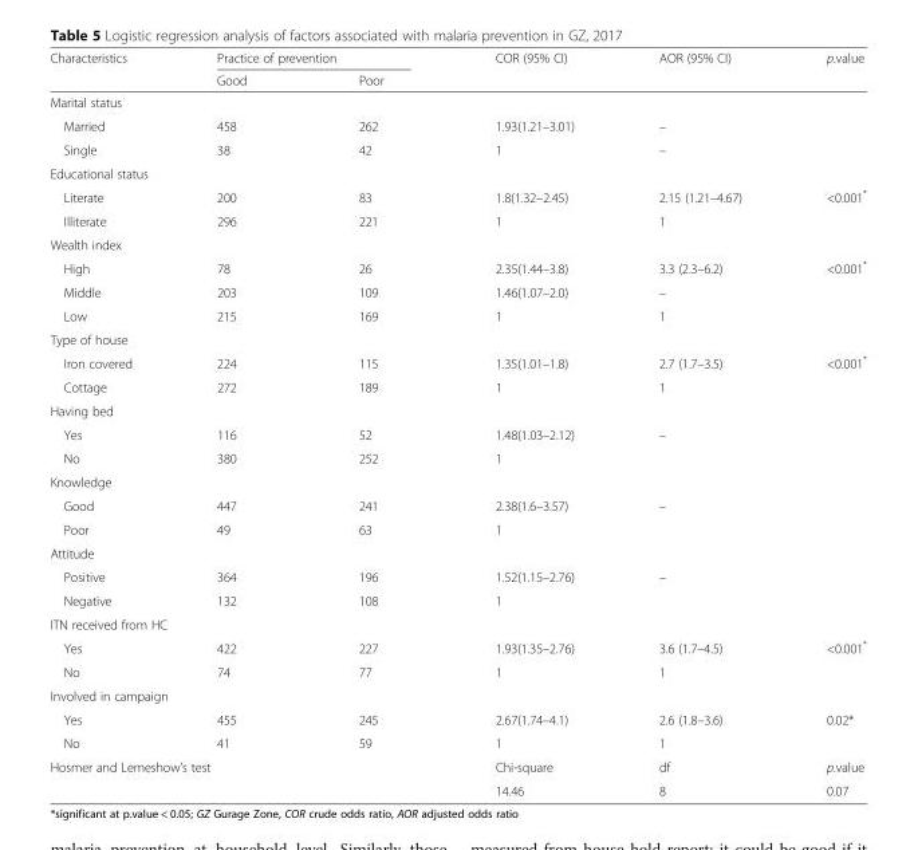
<table><thead><tr><td rowspan="2">Characteristics</td><td colspan="2">Practice of prevention</td><td rowspan="2">COR (95% CI)</td><td rowspan="2">AOR (95% CI)</td><td rowspan="2">p.value</td></tr><tr><td>Good</td><td>Poor</td></tr></thead><tbody><tr><td colspan="6">Marital status</td></tr><tr><td>Married</td><td>458</td><td>262</td><td>1.93(1.21–3.01)</td><td>–</td><td></td></tr><tr><td>Single</td><td>38</td><td>42</td><td>1</td><td>–</td><td></td></tr><tr><td colspan="6">Educational status</td></tr><tr><td>Literate</td><td>200</td><td>83</td><td>1.8(1.32–2.45)</td><td>2.15 (1.21–4.67)</td><td>&lt;0.001*</td></tr><tr><td>Illiterate</td><td>296</td><td>221</td><td>1</td><td>1</td><td></td></tr><tr><td colspan="6">Wealth index</td></tr><tr><td>High</td><td>78</td><td>26</td><td>2.35(1.44–3.8)</td><td>3.3 (2.3–6.2)</td><td>&lt;0.001*</td></tr><tr><td>Middle</td><td>203</td><td>109</td><td>1.46(1.07–2.0)</td><td>–</td><td></td></tr><tr><td>Low</td><td>215</td><td>169</td><td>1</td><td>1</td><td></td></tr><tr><td colspan="6">Type of house</td></tr><tr><td>Iron covered</td><td>224</td><td>115</td><td>1.35(1.01–1.8)</td><td>2.7 (1.7–3.5)</td><td>&lt;0.001*</td></tr><tr><td>Cottage</td><td>272</td><td>189</td><td>1</td><td>1</td><td></td></tr><tr><td colspan="6">Having bed</td></tr><tr><td>Yes</td><td>116</td><td>52</td><td>1.48(1.03–2.12)</td><td>–</td><td></td></tr><tr><td>No</td><td>380</td><td>252</td><td>1</td><td></td><td></td></tr><tr><td colspan="6">Knowledge</td></tr><tr><td>Good</td><td>447</td><td>241</td><td>2.38(1.6–3.57)</td><td>–</td><td></td></tr><tr><td>Poor</td><td>49</td><td>63</td><td>1</td><td></td><td></td></tr><tr><td colspan="6">Attitude</td></tr><tr><td>Positive</td><td>364</td><td>196</td><td>1.52(1.15–2.76)</td><td>–</td><td></td></tr><tr><td>Negative</td><td>132</td><td>108</td><td>1</td><td></td><td></td></tr><tr><td colspan="6">ITN received from HC</td></tr><tr><td>Yes</td><td>422</td><td>227</td><td>1.93(1.35–2.76)</td><td>3.6 (1.7–4.5)</td><td>&lt;0.001*</td></tr><tr><td>No</td><td>74</td><td>77</td><td>1</td><td>1</td><td></td></tr><tr><td colspan="6">Involved in campaign</td></tr><tr><td>Yes</td><td>455</td><td>245</td><td>2.67(1.74–4.1)</td><td>2.6 (1.8–3.6)</td><td>0.02*</td></tr><tr><td>No</td><td>41</td><td>59</td><td>1</td><td>1</td><td></td></tr><tr><td rowspan="2" colspan="3">Hosmer and Lemeshow’s test</td><td>Chi-square</td><td>df</td><td>p.value</td></tr><tr><td>14.46</td><td>8</td><td>0.07</td></tr></tbody></table>